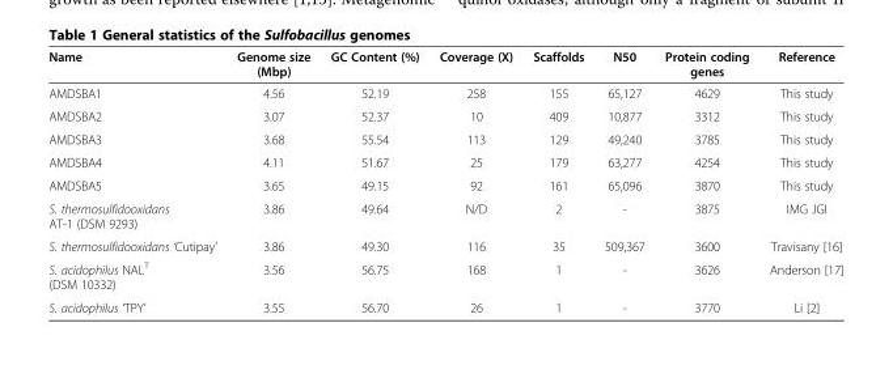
<table><thead><tr><td>Name</td><td>Genome size (Mbp)</td><td>GC Content (%)</td><td>Coverage (X)</td><td>Scaffolds</td><td>N50</td><td>Protein coding genes</td><td>Reference</td></tr></thead><tbody><tr><td>AMDSBA1</td><td>4.56</td><td>52.19</td><td>258</td><td>155</td><td>65,127</td><td>4629</td><td>This study</td></tr><tr><td>AMDSBA2</td><td>3.07</td><td>52.37</td><td>10</td><td>409</td><td>10,877</td><td>3312</td><td>This study</td></tr><tr><td>AMDSBA3</td><td>3.68</td><td>55.54</td><td>113</td><td>129</td><td>49,240</td><td>3785</td><td>This study</td></tr><tr><td>AMDSBA4</td><td>4.11</td><td>51.67</td><td>25</td><td>179</td><td>63,277</td><td>4254</td><td>This study</td></tr><tr><td>AMDSBA5</td><td>3.65</td><td>49.15</td><td>92</td><td>161</td><td>65,096</td><td>3870</td><td>This study</td></tr><tr><td>S. thermosulfidooxidans AT-1 (DSM 9293)</td><td>3.86</td><td>49.64</td><td>N/D</td><td>2</td><td>-</td><td>3875</td><td>IMG JGI</td></tr><tr><td>S. thermosulfidooxidans ‘Cutipay’</td><td>3.86</td><td>49.30</td><td>116</td><td>35</td><td>509,367</td><td>3600</td><td>Travisany [16]</td></tr><tr><td>S. acidophilus NAL<sup>T</sup> (DSM 10332)</td><td>3.56</td><td>56.75</td><td>168</td><td>1</td><td>-</td><td>3626</td><td>Anderson [17]</td></tr><tr><td>S. acidophilus ‘TPY’</td><td>3.55</td><td>56.70</td><td>26</td><td>1</td><td>-</td><td>3770</td><td>Li [2]</td></tr></tbody></table>